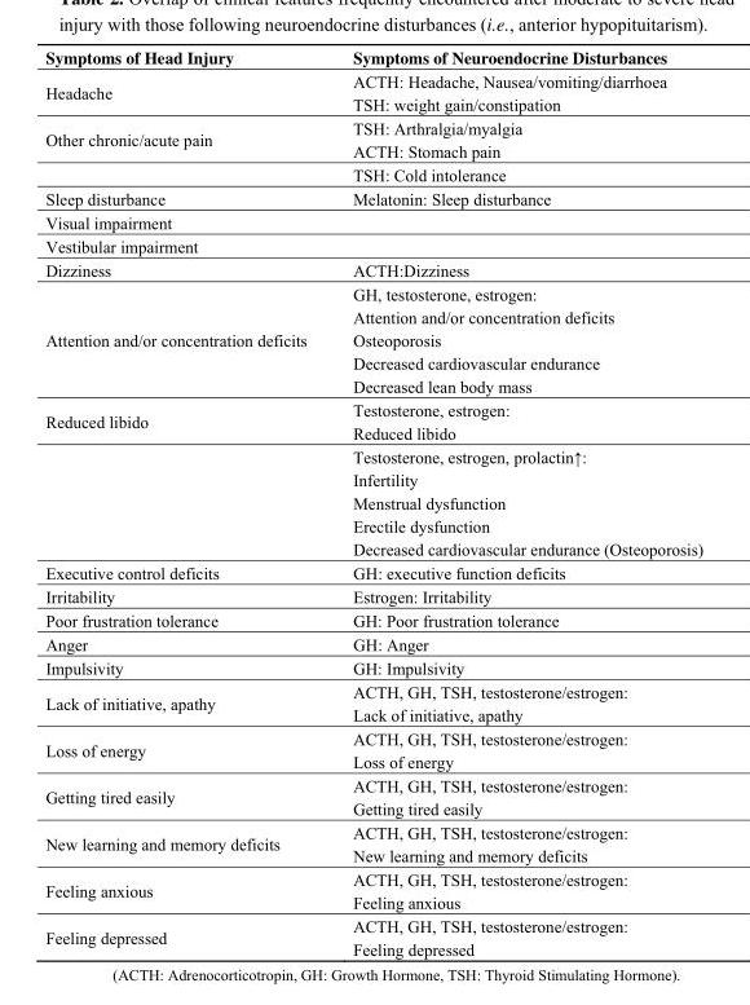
<table><thead><tr><td>Symptoms of Head Injury</td><td>Symptoms of Neuroendocrine Disturbances</td></tr></thead><tbody><tr><td>Headache</td><td>ACTH: Headache, Nausea/vomiting/diarrhoea TSH: weight gain/constipation</td></tr><tr><td rowspan="2">Other chronic/acute pain</td><td>TSH: Arthralgia/myalgia ACTH: Stomach pain</td></tr><tr><td>TSH: Cold intolerance</td></tr><tr><td>Sleep disturbance</td><td>Melatonin: Sleep disturbance</td></tr><tr><td colspan="2">Visual impairment</td></tr><tr><td colspan="2">Vestibular impairment</td></tr><tr><td>Dizziness</td><td>ACTH:Dizziness</td></tr><tr><td>Attention and/or concentration deficits</td><td>GH, testosterone, estrogen: Attention and/or concentration deficits Osteoporosis Decreased cardiovascular endurance Decreased lean body mass</td></tr><tr><td rowspan="2">Reduced libido</td><td>Testosterone, estrogen: Reduced libido</td></tr><tr><td>Testosterone, estrogen, prolactin↑: Infertility Menstrual dysfunction Erectile dysfunction Decreased cardiovascular endurance (Osteoporosis)</td></tr><tr><td>Executive control deficits</td><td>GH: executive function deficits</td></tr><tr><td>Irritability</td><td>Estrogen: Irritability</td></tr><tr><td>Poor frustration tolerance</td><td>GH: Poor frustration tolerance</td></tr><tr><td>Anger</td><td>GH: Anger</td></tr><tr><td>Impulsivity</td><td>GH: Impulsivity</td></tr><tr><td>Lack of initiative, apathy</td><td>ACTH, GH, TSH, testosterone/estrogen: Lack of initiative, apathy</td></tr><tr><td>Loss of energy</td><td>ACTH, GH, TSH, testosterone/estrogen: Loss of energy</td></tr><tr><td>Getting tired easily</td><td>ACTH, GH, TSH, testosterone/estrogen: Getting tired easily</td></tr><tr><td>New learning and memory deficits</td><td>ACTH, GH, TSH, testosterone/estrogen: New learning and memory deficits</td></tr><tr><td>Feeling anxious</td><td>ACTH, GH, TSH, testosterone/estrogen: Feeling anxious</td></tr><tr><td>Feeling depressed</td><td>ACTH, GH, TSH, testosterone/estrogen: Feeling depressed</td></tr></tbody></table>